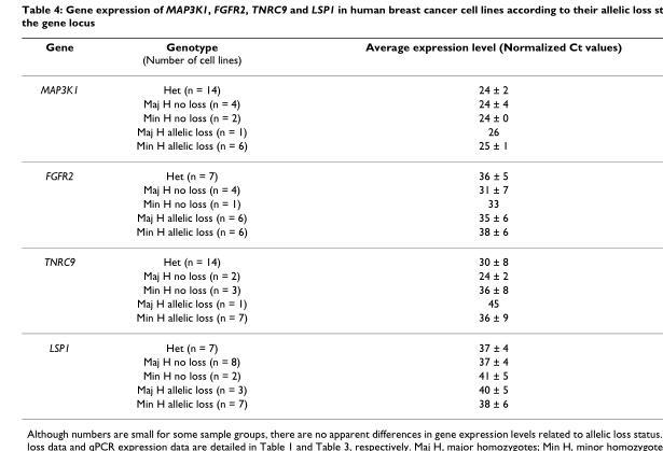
<table><thead><tr><td>Gene</td><td>Genotype (Number of cell lines)</td><td>Average expression level (Normalized Ct values)</td></tr></thead><tbody><tr><td rowspan="5">MAP3K1</td><td>Het (n = 14)</td><td>24 ± 2</td></tr><tr><td>Maj H no loss (n = 4)</td><td>24 ± 4</td></tr><tr><td>Min H no loss (n = 2)</td><td>24 ± 0</td></tr><tr><td>Maj H allelic loss (n = 1)</td><td>26</td></tr><tr><td>Min H allelic loss (n = 6)</td><td>25 ± 1</td></tr><tr><td rowspan="5">FGFR2</td><td>Het (n = 7)</td><td>36 ± 5</td></tr><tr><td>Maj H no loss (n = 4)</td><td>31 ± 7</td></tr><tr><td>Min H no loss (n = 1)</td><td>33</td></tr><tr><td>Maj H allelic loss (n = 6)</td><td>35 ± 6</td></tr><tr><td>Min H allelic loss (n = 6)</td><td>38 ± 6</td></tr><tr><td rowspan="5">TNRC9</td><td>Het (n = 14)</td><td>30 ± 8</td></tr><tr><td>Maj H no loss (n = 2)</td><td>24 ± 2</td></tr><tr><td>Min H no loss (n = 3)</td><td>36 ± 8</td></tr><tr><td>Maj H allelic loss (n = 1)</td><td>45</td></tr><tr><td>Min H allelic loss (n = 7)</td><td>36 ± 9</td></tr><tr><td rowspan="5">LSP1</td><td>Het (n = 7)</td><td>37 ± 4</td></tr><tr><td>Maj H no loss (n = 8)</td><td>37 ± 4</td></tr><tr><td>Min H no loss (n = 2)</td><td>41 ± 5</td></tr><tr><td>Maj H allelic loss (n = 3)</td><td>40 ± 5</td></tr><tr><td>Min H allelic loss (n = 7)</td><td>38 ± 6</td></tr></tbody></table>